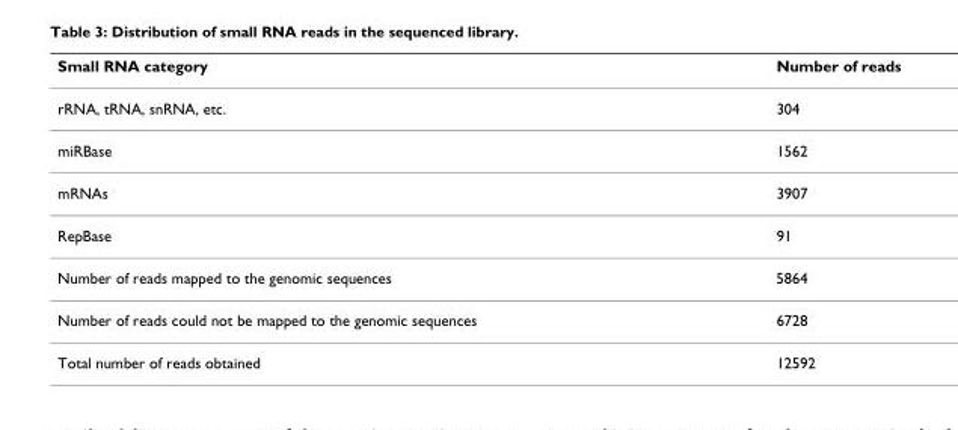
<table><thead><tr><td>Small RNA category</td><td>Number of reads</td></tr></thead><tbody><tr><td>rRNA, tRNA, snRNA, etc.</td><td>304</td></tr><tr><td>miRBase</td><td>1562</td></tr><tr><td>mRNAs</td><td>3907</td></tr><tr><td>RepBase</td><td>91</td></tr><tr><td>Number of reads mapped to the genomic sequences</td><td>5864</td></tr><tr><td>Number of reads could not be mapped to the genomic sequences</td><td>6728</td></tr><tr><td>Total number of reads obtained</td><td>12592</td></tr></tbody></table>